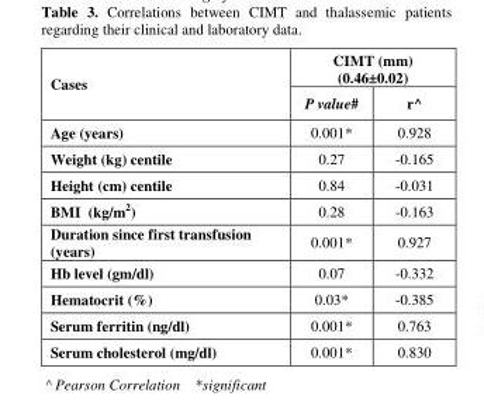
<table><thead><tr><td rowspan="2">Cases</td><td colspan="2">CIMT (mm) (0.46±0.02)</td></tr><tr><td>P value#</td><td>r^</td></tr></thead><tbody><tr><td>Age (years)</td><td>0.001*</td><td>0.928</td></tr><tr><td>Weight (kg) centile</td><td>0.27</td><td>-0.165</td></tr><tr><td>Height (cm) centile</td><td>0.84</td><td>-0.031</td></tr><tr><td>BMI (kg/m<sup>2</sup>)</td><td>0.28</td><td>-0.163</td></tr><tr><td>Duration since first transfusion (years)</td><td>0.001*</td><td>0.927</td></tr><tr><td>Hb level (gm/dl)</td><td>0.07</td><td>-0.332</td></tr><tr><td>Hematocrit (%)</td><td>0.03*</td><td>-0.385</td></tr><tr><td>Serum ferritin (ng/dl)</td><td>0.001*</td><td>0.763</td></tr><tr><td>Serum cholesterol (mg/dl)</td><td>0.001*</td><td>0.830</td></tr></tbody></table>